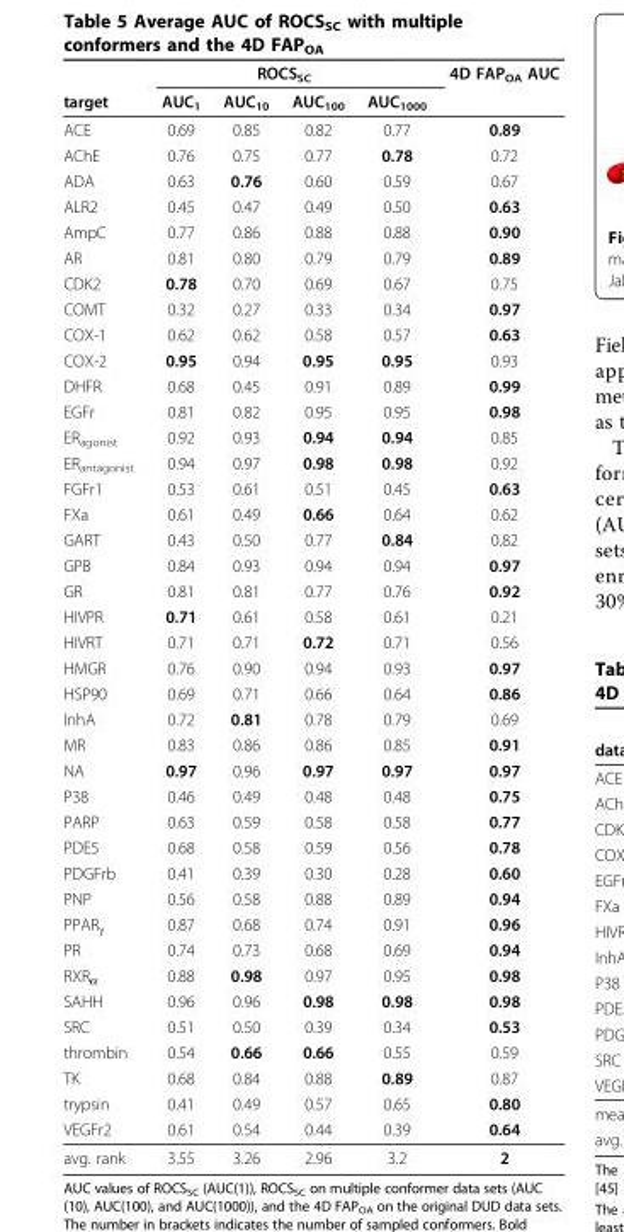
<table><thead><tr><td rowspan="2">target</td><td rowspan="2">AUC<sub>1</sub></td><td colspan="2">ROCS<sub>SC</sub></td><td rowspan="2">AUC<sub>1000</sub></td><td rowspan="2">4D FAP<sub>OA</sub> AUC</td></tr><tr><td>AUC<sub>10</sub></td><td>AUC<sub>100</sub></td></tr></thead><tbody><tr><td>ACE</td><td>0.69</td><td>0.85</td><td>0.82</td><td>0.77</td><td>0.89</td></tr><tr><td>AChE</td><td>0.76</td><td>0.75</td><td>0.77</td><td>0.78</td><td>0.72</td></tr><tr><td>ADA</td><td>0.63</td><td>0.76</td><td>0.60</td><td>0.59</td><td>0.67</td></tr><tr><td>ALR2</td><td>0.45</td><td>0.47</td><td>0.49</td><td>0.50</td><td>0.63</td></tr><tr><td>AmpC</td><td>0.77</td><td>0.86</td><td>0.88</td><td>0.88</td><td>0.90</td></tr><tr><td>AR</td><td>0.81</td><td>0.80</td><td>0.79</td><td>0.79</td><td>0.89</td></tr><tr><td>CDK2</td><td>0.78</td><td>0.70</td><td>0.69</td><td>0.67</td><td>0.75</td></tr><tr><td>COMT</td><td>0.32</td><td>0.27</td><td>0.33</td><td>0.34</td><td>0.97</td></tr><tr><td>COX-1</td><td>0.62</td><td>0.62</td><td>0.58</td><td>0.57</td><td>0.63</td></tr><tr><td>COX-2</td><td>0.95</td><td>0.94</td><td>0.95</td><td>0.95</td><td>0.93</td></tr><tr><td>DHFR</td><td>0.68</td><td>0.45</td><td>0.91</td><td>0.89</td><td>0.99</td></tr><tr><td>EGFr</td><td>0.81</td><td>0.82</td><td>0.95</td><td>0.95</td><td>0.98</td></tr><tr><td>ER<sub>agonist</sub></td><td>0.92</td><td>0.93</td><td>0.94</td><td>0.94</td><td>0.85</td></tr><tr><td>ER<sub>antagonist</sub></td><td>0.94</td><td>0.97</td><td>0.98</td><td>0.98</td><td>0.92</td></tr><tr><td>FGFr1</td><td>0.53</td><td>0.61</td><td>0.51</td><td>0.45</td><td>0.63</td></tr><tr><td>FXa</td><td>0.61</td><td>0.49</td><td>0.66</td><td>0.64</td><td>0.62</td></tr><tr><td>GART</td><td>0.43</td><td>0.50</td><td>0.77</td><td>0.84</td><td>0.82</td></tr><tr><td>GPB</td><td>0.84</td><td>0.93</td><td>0.94</td><td>0.94</td><td>0.97</td></tr><tr><td>GR</td><td>0.81</td><td>0.81</td><td>0.77</td><td>0.76</td><td>0.92</td></tr><tr><td>HIVPR</td><td>0.71</td><td>0.61</td><td>0.58</td><td>0.61</td><td>0.21</td></tr><tr><td>HIVRT</td><td>0.71</td><td>0.71</td><td>0.72</td><td>0.71</td><td>0.56</td></tr><tr><td>HMGR</td><td>0.76</td><td>0.90</td><td>0.94</td><td>0.93</td><td>0.97</td></tr><tr><td>HSP90</td><td>0.69</td><td>0.71</td><td>0.66</td><td>0.64</td><td>0.86</td></tr><tr><td>InhA</td><td>0.72</td><td>0.81</td><td>0.78</td><td>0.79</td><td>0.69</td></tr><tr><td>MR</td><td>0.83</td><td>0.86</td><td>0.86</td><td>0.85</td><td>0.91</td></tr><tr><td>NA</td><td>0.97</td><td>0.96</td><td>0.97</td><td>0.97</td><td>0.97</td></tr><tr><td>P38</td><td>0.46</td><td>0.49</td><td>0.48</td><td>0.48</td><td>0.75</td></tr><tr><td>PARP</td><td>0.63</td><td>0.59</td><td>0.58</td><td>0.58</td><td>0.77</td></tr><tr><td>PDE5</td><td>0.68</td><td>0.58</td><td>0.59</td><td>0.56</td><td>0.78</td></tr><tr><td>PDGFrb</td><td>0.41</td><td>0.39</td><td>0.30</td><td>0.28</td><td>0.60</td></tr><tr><td>PNP</td><td>0.56</td><td>0.58</td><td>0.88</td><td>0.89</td><td>0.94</td></tr><tr><td>PPAR<sub>γ</sub></td><td>0.87</td><td>0.68</td><td>0.74</td><td>0.91</td><td>0.96</td></tr><tr><td>PR</td><td>0.74</td><td>0.73</td><td>0.68</td><td>0.69</td><td>0.94</td></tr><tr><td>RXR<sub>α</sub></td><td>0.88</td><td>0.98</td><td>0.97</td><td>0.95</td><td>0.98</td></tr><tr><td>SAHH</td><td>0.96</td><td>0.96</td><td>0.98</td><td>0.98</td><td>0.98</td></tr><tr><td>SRC</td><td>0.51</td><td>0.50</td><td>0.39</td><td>0.34</td><td>0.53</td></tr><tr><td>thrombin</td><td>0.54</td><td>0.66</td><td>0.66</td><td>0.55</td><td>0.59</td></tr><tr><td>TK</td><td>0.68</td><td>0.84</td><td>0.88</td><td>0.89</td><td>0.87</td></tr><tr><td>trypsin</td><td>0.41</td><td>0.49</td><td>0.57</td><td>0.65</td><td>0.80</td></tr><tr><td>VEGFr2</td><td>0.61</td><td>0.54</td><td>0.44</td><td>0.39</td><td>0.64</td></tr><tr><td>avg. rank</td><td>3.55</td><td>3.26</td><td>2.96</td><td>3.2</td><td>2</td></tr></tbody></table>